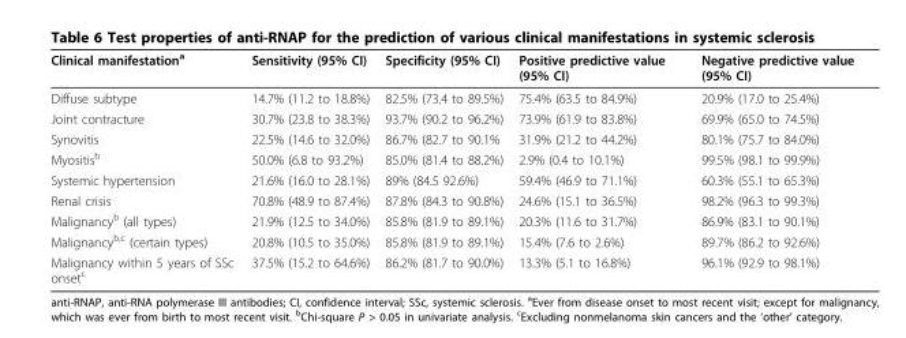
<table><thead><tr><td>Clinical manifestation<sup>a</sup></td><td>Sensitivity (95% CI)</td><td>Specificity (95% CI)</td><td>Positive predictive value (95% CI)</td><td>Negative predictive value (95% CI)</td></tr></thead><tbody><tr><td>Diffuse subtype</td><td>14.7% (11.2 to 18.8%)</td><td>82.5% (73.4 to 89.5%)</td><td>75.4% (63.5 to 84.9%)</td><td>20.9% (17.0 to 25.4%)</td></tr><tr><td>Joint contracture</td><td>30.7% (23.8 to 38.3%)</td><td>93.7% (90.2 to 96.2%)</td><td>73.9% (61.9 to 83.8%)</td><td>69.9% (65.0 to 74.5%)</td></tr><tr><td>Synovitis</td><td>22.5% (14.6 to 32.0%)</td><td>86.7% (82.7 to 90.1%</td><td>31.9% (21.2 to 44.2%)</td><td>80.1% (75.7 to 84.0%)</td></tr><tr><td>Myositis<sup>b</sup></td><td>50.0% (6.8 to 93.2%)</td><td>85.0% (81.4 to 88.2%)</td><td>2.9% (0.4 to 10.1%)</td><td>99.5% (98.1 to 99.9%)</td></tr><tr><td>Systemic hypertension</td><td>21.6% (16.0 to 28.1%)</td><td>89% (84.5 92.6%)</td><td>59.4% (46.9 to 71.1%)</td><td>60.3% (55.1 to 65.3%)</td></tr><tr><td>Renal crisis</td><td>70.8% (48.9 to 87.4%)</td><td>87.8% (84.3 to 90.8%)</td><td>24.6% (15.1 to 36.5%)</td><td>98.2% (96.3 to 99.3%)</td></tr><tr><td>Malignancy<sup>b</sup> (all types)</td><td>21.9% (12.5 to 34.0%)</td><td>85.8% (81.9 to 89.1%)</td><td>20.3% (11.6 to 31.7%)</td><td>86.9% (83.1 to 90.1%)</td></tr><tr><td>Malignancy<sup>b,c</sup> (certain types)</td><td>20.8% (10.5 to 35.0%)</td><td>85.8% (81.9 to 89.1%)</td><td>15.4% (7.6 to 2.6%)</td><td>89.7% (86.2 to 92.6%)</td></tr><tr><td>Malignancy within 5 years of SSc onset<sup>c</sup></td><td>37.5% (15.2 to 64.6%)</td><td>86.2% (81.7 to 90.0%)</td><td>13.3% (5.1 to 16.8%)</td><td>96.1% (92.9 to 98.1%)</td></tr></tbody></table>